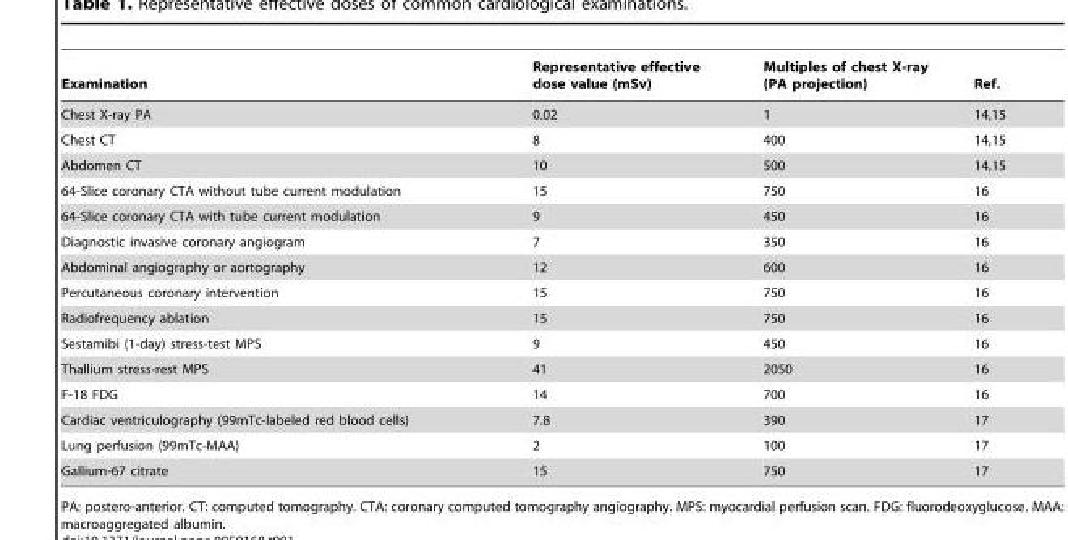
<table><thead><tr><td>Examination</td><td>Representative effective dose value (mSv)</td><td>Multiples of chest X-ray (PA projection)</td><td>Ref.</td></tr></thead><tbody><tr><td>Chest X-ray PA</td><td>0.02</td><td>1</td><td>14,15</td></tr><tr><td>Chest CT</td><td>8</td><td>400</td><td>14,15</td></tr><tr><td>Abdomen CT</td><td>10</td><td>500</td><td>14,15</td></tr><tr><td>64-Slice coronary CTA without tube current modulation</td><td>15</td><td>750</td><td>16</td></tr><tr><td>64-Slice coronary CTA with tube current modulation</td><td>9</td><td>450</td><td>16</td></tr><tr><td>Diagnostic invasive coronary angiogram</td><td>7</td><td>350</td><td>16</td></tr><tr><td>Abdominal angiography or aortography</td><td>12</td><td>600</td><td>16</td></tr><tr><td>Percutaneous coronary intervention</td><td>15</td><td>750</td><td>16</td></tr><tr><td>Radiofrequency ablation</td><td>15</td><td>750</td><td>16</td></tr><tr><td>Sestamibi (1-day) stress-test MPS</td><td>9</td><td>450</td><td>16</td></tr><tr><td>Thallium stress-rest MPS</td><td>41</td><td>2050</td><td>16</td></tr><tr><td>F-18 FDG</td><td>14</td><td>700</td><td>16</td></tr><tr><td>Cardiac ventriculography (99mTc-labeled red blood cells)</td><td>7.8</td><td>390</td><td>17</td></tr><tr><td>Lung perfusion (99mTc-MAA)</td><td>2</td><td>100</td><td>17</td></tr><tr><td>Gallium-67 citrate</td><td>15</td><td>750</td><td>17</td></tr></tbody></table>